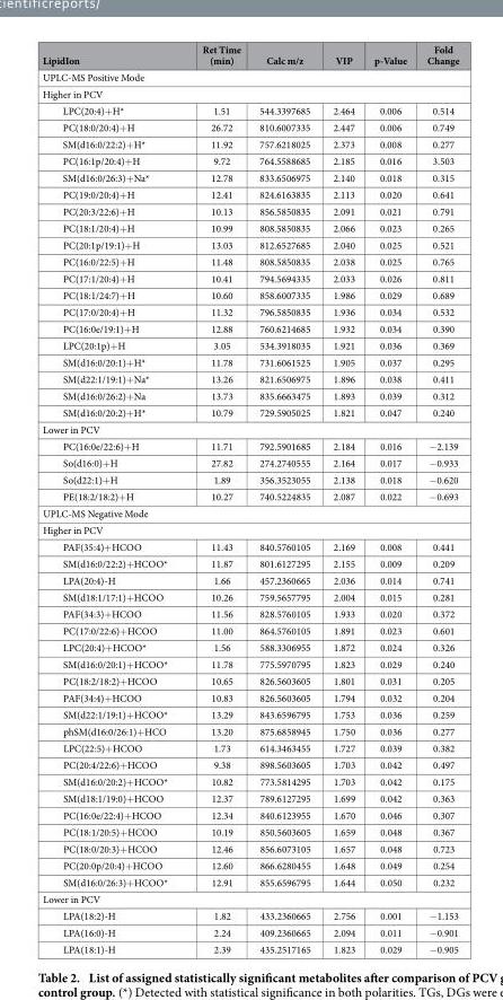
<table><thead><tr><td>LipidIon</td><td>Ret Time (min)</td><td>Calc m/z</td><td>VIP</td><td>p-Value</td><td>Fold Change</td></tr></thead><tbody><tr><td colspan="6">UPLC-MS Positive Mode</td></tr><tr><td colspan="6">Higher in PCV</td></tr><tr><td>LPC(20:4)+ H*</td><td>1.51</td><td>544.3397685</td><td>2.464</td><td>0.006</td><td>0.514</td></tr><tr><td>PC(18:0/20:4)+ H</td><td>26.72</td><td>810.6007335</td><td>2.447</td><td>0.006</td><td>0.749</td></tr><tr><td>SM(d16:0/22:2)+ H*</td><td>11.92</td><td>757.6218025</td><td>2.373</td><td>0.008</td><td>0.277</td></tr><tr><td>PC(16:1p/20:4)+ H</td><td>9.72</td><td>764.5588685</td><td>2.185</td><td>0.016</td><td>3.503</td></tr><tr><td>SM(d16:0/26:3)+ Na*</td><td>12.78</td><td>833.6506975</td><td>2.140</td><td>0.018</td><td>0.315</td></tr><tr><td>PC(19:0/20:4)+ H</td><td>12.41</td><td>824.6163835</td><td>2.113</td><td>0.020</td><td>0.641</td></tr><tr><td>PC(20:3/22:6)+ H</td><td>10.13</td><td>856.5850835</td><td>2.091</td><td>0.021</td><td>0.791</td></tr><tr><td>PC(18:1/20:4)+ H</td><td>10.99</td><td>808.5850835</td><td>2.066</td><td>0.023</td><td>0.265</td></tr><tr><td>PC(20:1p/19:1)+ H</td><td>13.03</td><td>812.6527685</td><td>2.040</td><td>0.025</td><td>0.521</td></tr><tr><td>PC(16:0/22:5)+ H</td><td>11.48</td><td>808.5850835</td><td>2.038</td><td>0.025</td><td>0.765</td></tr><tr><td>PC(17:1/20:4)+ H</td><td>10.41</td><td>794.5694335</td><td>2.033</td><td>0.026</td><td>0.811</td></tr><tr><td>PC(18:1/24:7)+ H</td><td>10.60</td><td>858.6007335</td><td>1.986</td><td>0.029</td><td>0.689</td></tr><tr><td>PC(17:0/20:4)+ H</td><td>11.32</td><td>796.5850835</td><td>1.936</td><td>0.034</td><td>0.532</td></tr><tr><td>PC(16:0e/19:1)+ H</td><td>12.88</td><td>760.6214685</td><td>1.932</td><td>0.034</td><td>0.390</td></tr><tr><td>LPC(20:1p)+ H</td><td>3.05</td><td>534.3918035</td><td>1.921</td><td>0.036</td><td>0.369</td></tr><tr><td>SM(d16:0/20:1)+ H*</td><td>11.78</td><td>731.6061525</td><td>1.905</td><td>0.037</td><td>0.295</td></tr><tr><td>SM(d22:1/19:1)+ Na*</td><td>13.26</td><td>821.6506975</td><td>1.896</td><td>0.038</td><td>0.411</td></tr><tr><td>SM(d16:0/26:2)+ Na</td><td>13.73</td><td>835.6663475</td><td>1.893</td><td>0.039</td><td>0.312</td></tr><tr><td>SM(d16:0/20:2)+ H*</td><td>10.79</td><td>729.5905025</td><td>1.821</td><td>0.047</td><td>0.240</td></tr><tr><td colspan="6">Lower in PCV</td></tr><tr><td>PC(16:0e/22:6)+ H</td><td>11.71</td><td>792.5901685</td><td>2.184</td><td>0.016</td><td>− 2.139</td></tr><tr><td>So(d16:0)+ H</td><td>27.82</td><td>274.2740555</td><td>2.164</td><td>0.017</td><td>− 0.933</td></tr><tr><td>So(d22:1)+ H</td><td>1.89</td><td>356.3523055</td><td>2.138</td><td>0.018</td><td>− 0.620</td></tr><tr><td>PE(18:2/18:2)+ H</td><td>10.27</td><td>740.5224835</td><td>2.087</td><td>0.022</td><td>− 0.693</td></tr><tr><td colspan="6">UPLC-MS Negative Mode</td></tr><tr><td colspan="6">Higher in PCV</td></tr><tr><td>PAF(35:4)+ HCOO</td><td>11.43</td><td>840.5760105</td><td>2.169</td><td>0.008</td><td>0.441</td></tr><tr><td>SM(d16:0/22:2)+ HCOO*</td><td>11.87</td><td>801.6127295</td><td>2.155</td><td>0.009</td><td>0.209</td></tr><tr><td>LPA(20:4)-H</td><td>1.66</td><td>457.2360665</td><td>2.036</td><td>0.014</td><td>0.741</td></tr><tr><td>SM(d18:1/17:1)+ HCOO</td><td>10.26</td><td>759.5657795</td><td>2.004</td><td>0.015</td><td>0.281</td></tr><tr><td>PAF(34:3)+ HCOO</td><td>11.56</td><td>828.5760105</td><td>1.933</td><td>0.020</td><td>0.372</td></tr><tr><td>PC(17:0/22:6)+ HCOO</td><td>11.00</td><td>864.5760105</td><td>1.891</td><td>0.023</td><td>0.601</td></tr><tr><td>LPC(20:4)+ HCOO*</td><td>1.56</td><td>588.3306955</td><td>1.872</td><td>0.024</td><td>0.326</td></tr><tr><td>SM(d16:0/20:1)+ HCOO*</td><td>11.78</td><td>775.5970795</td><td>1.823</td><td>0.029</td><td>0.240</td></tr><tr><td>PC(18:2/18:2)+ HCOO</td><td>10.65</td><td>826.5603605</td><td>1.801</td><td>0.031</td><td>0.205</td></tr><tr><td>PAF(34:4)+ HCOO</td><td>10.83</td><td>826.5603605</td><td>1.794</td><td>0.032</td><td>0.204</td></tr><tr><td>SM(d22:1/19:1)+ HCOO*</td><td>13.29</td><td>843.6596795</td><td>1.753</td><td>0.036</td><td>0.259</td></tr><tr><td>phSM(d16:0/26:1)+ HCO</td><td>13.20</td><td>875.6858945</td><td>1.750</td><td>0.036</td><td>0.277</td></tr><tr><td>LPC(22:5)+ HCOO</td><td>1.73</td><td>614.3463455</td><td>1.727</td><td>0.039</td><td>0.382</td></tr><tr><td>PC(20:4/22:6)+ HCOO</td><td>9.38</td><td>898.5603605</td><td>1.703</td><td>0.042</td><td>0.497</td></tr><tr><td>SM(d16:0/20:2)+ HCOO*</td><td>10.82</td><td>773.5814295</td><td>1.703</td><td>0.042</td><td>0.175</td></tr><tr><td>SM(d18:1/19:0)+ HCOO</td><td>12.37</td><td>789.6127295</td><td>1.699</td><td>0.042</td><td>0.363</td></tr><tr><td>PC(16:0e/22:4)+ HCOO</td><td>12.34</td><td>840.6123955</td><td>1.670</td><td>0.046</td><td>0.307</td></tr><tr><td>PC(18:1/20:5)+ HCOO</td><td>10.19</td><td>850.5603605</td><td>1.659</td><td>0.048</td><td>0.367</td></tr><tr><td>PC(18:0/20:3)+ HCOO</td><td>12.46</td><td>856.6073105</td><td>1.657</td><td>0.048</td><td>0.723</td></tr><tr><td>PC(20:0p/20:4)+ HCOO</td><td>12.60</td><td>866.6280455</td><td>1.648</td><td>0.049</td><td>0.254</td></tr><tr><td>SM(d16:0/26:3)+ HCOO*</td><td>12.91</td><td>855.6596795</td><td>1.644</td><td>0.050</td><td>0.232</td></tr><tr><td colspan="6">Lower in PCV</td></tr><tr><td>LPA(18:2)-H</td><td>1.82</td><td>433.2360665</td><td>2.756</td><td>0.001</td><td>− 1.153</td></tr><tr><td>LPA(16:0)-H</td><td>2.24</td><td>409.2360665</td><td>2.094</td><td>0.011</td><td>− 0.901</td></tr><tr><td>LPA(18:1)-H</td><td>2.39</td><td>435.2517165</td><td>1.823</td><td>0.029</td><td>− 0.905</td></tr></tbody></table>